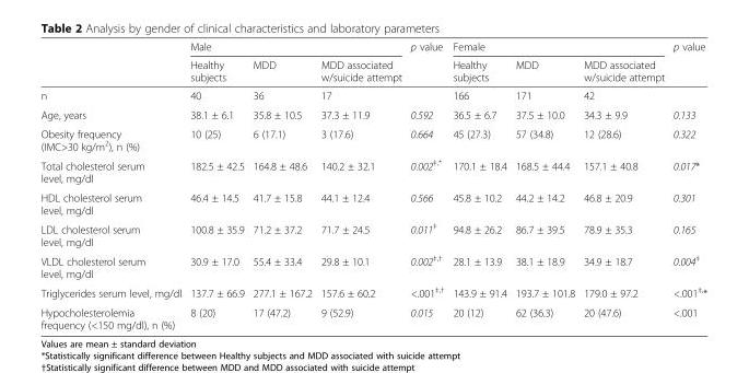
<table><thead><tr><td rowspan="2"></td><td colspan="3">Male</td><td rowspan="2">p value</td><td colspan="3">Female</td><td rowspan="2">p value</td></tr><tr><td>Healthy subjects</td><td>MDD</td><td>MDD associated w/suicide attempt</td><td>Healthy subjects</td><td>MDD</td><td>MDD associated w/suicide attempt</td></tr></thead><tbody><tr><td>n</td><td>40</td><td>36</td><td>17</td><td></td><td>166</td><td>171</td><td>42</td><td></td></tr><tr><td>Age, years</td><td>38.1 ± 6.1</td><td>35.8 ± 10.5</td><td>37.3 ± 11.9</td><td>0.592</td><td>36.5 ± 6.7</td><td>37.5 ± 10.0</td><td>34.3 ± 9.9</td><td>0.133</td></tr><tr><td>Obesity frequency (IMC&gt;30 kg/m<sup>2</sup>), n (%)</td><td>10 (25)</td><td>6 (17.1)</td><td>3 (17.6)</td><td>0.664</td><td>45 (27.3)</td><td>57 (34.8)</td><td>12 (28.6)</td><td>0.322</td></tr><tr><td>Total cholesterol serum level, mg/dl</td><td>182.5 ± 42.5</td><td>164.8 ± 48.6</td><td>140.2 ± 32.1</td><td>0.002<sup>‡,*</sup></td><td>170.1 ± 18.4</td><td>168.5 ± 44.4</td><td>157.1 ± 40.8</td><td>0.017*</td></tr><tr><td>HDL cholesterol serum level, mg/dl</td><td>46.4 ± 14.5</td><td>41.7 ± 15.8</td><td>44.1 ± 12.4</td><td>0.566</td><td>45.8 ± 10.2</td><td>44.2 ± 14.2</td><td>46.8 ± 20.9</td><td>0.301</td></tr><tr><td>LDL cholesterol serum level, mg/dl</td><td>100.8 ± 35.9</td><td>71.2 ± 37.2</td><td>71.7 ± 24.5</td><td>0.011<sup>‡</sup></td><td>94.8 ± 26.2</td><td>86.7 ± 39.5</td><td>78.9 ± 35.3</td><td>0.165</td></tr><tr><td>VLDL cholesterol serum level, mg/dl</td><td>30.9 ± 17.0</td><td>55.4 ± 33.4</td><td>29.8 ± 10.1</td><td>0.002<sup>‡,†</sup></td><td>28.1 ± 13.9</td><td>38.1 ± 18.9</td><td>34.9 ± 18.7</td><td>0.004<sup>‡</sup></td></tr><tr><td>Triglycerides serum level, mg/dl</td><td>137.7 ± 66.9</td><td>277.1 ± 167.2</td><td>157.6 ± 60.2</td><td>&lt;.001<sup>‡,†</sup></td><td>143.9 ± 91.4</td><td>193.7 ± 101.8</td><td>179.0 ± 97.2</td><td>&lt;.001<sup>‡,</sup>*</td></tr><tr><td>Hypocholesterolemia frequency (&lt;150 mg/dl), n (%)</td><td>8 (20)</td><td>17 (47.2)</td><td>9 (52.9)</td><td>0.015</td><td>20 (12)</td><td>62 (36.3)</td><td>20 (47.6)</td><td>&lt;.001</td></tr></tbody></table>